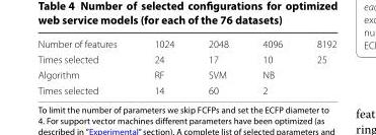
<table><tbody><tr><td>Number of features</td><td>1024</td><td>2048</td><td>4096</td><td>8192</td></tr><tr><td>Times selected</td><td>24</td><td>17</td><td>10</td><td>25</td></tr><tr><td>Algorithm</td><td>RF</td><td>SVM</td><td>NB</td><td></td></tr><tr><td>Times selected</td><td>14</td><td>60</td><td>2</td><td></td></tr></tbody></table>